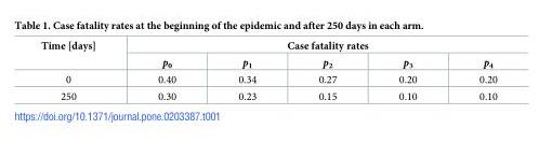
<table><thead><tr><td rowspan="2">Time [days]</td><td colspan="5">Case fatality rates</td></tr><tr><td>p<sub>0</sub></td><td>p<sub>1</sub></td><td>p<sub>2</sub></td><td>p<sub>3</sub></td><td>p<sub>4</sub></td></tr></thead><tbody><tr><td>0</td><td>0.40</td><td>0.34</td><td>0.27</td><td>0.20</td><td>0.20</td></tr><tr><td>250</td><td>0.30</td><td>0.23</td><td>0.15</td><td>0.10</td><td>0.10</td></tr></tbody></table>